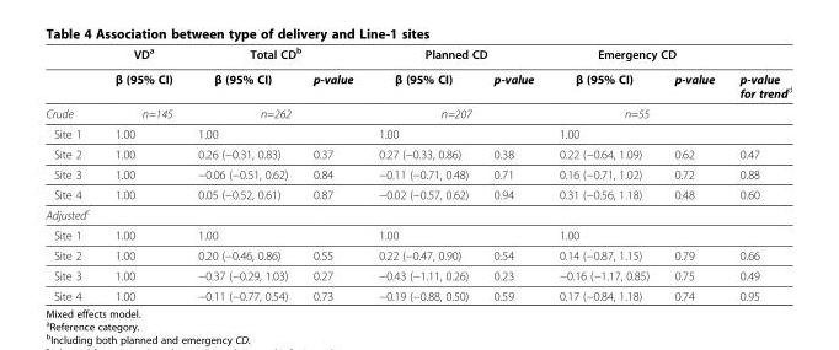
<table><thead><tr><td rowspan="2"></td><td rowspan="2">VD<sup>a</sup> β (95% CI)</td><td colspan="2">Total CD<sup>b</sup></td><td colspan="2">Planned CD</td><td colspan="2">Emergency CD</td><td rowspan="2">p-value for trend<sup>d</sup></td></tr><tr><td>β (95% CI)</td><td>p-value</td><td>β (95% CI)</td><td>p-value</td><td>β (95% CI)</td><td>p-value</td></tr></thead><tbody><tr><td>Crude</td><td>n=145</td><td colspan="2">n=262</td><td colspan="2">n=207</td><td colspan="2">n=55</td><td></td></tr><tr><td>Site 1</td><td>1.00</td><td>1.00</td><td></td><td>1.00</td><td></td><td>1.00</td><td></td><td></td></tr><tr><td>Site 2</td><td>1.00</td><td>0.26 (−0.31, 0.83)</td><td>0.37</td><td>0.27 (−0.33, 0.86)</td><td>0.38</td><td>0.22 (−0.64, 1.09)</td><td>0.62</td><td>0.47</td></tr><tr><td>Site 3</td><td>1.00</td><td>−0.06 (−0.51, 0.62)</td><td>0.84</td><td>−0.11 (−0.71, 0.48)</td><td>0.71</td><td>0.16 (−0.71, 1.02)</td><td>0.72</td><td>0.88</td></tr><tr><td>Site 4</td><td>1.00</td><td>0.05 (−0.52, 0.61)</td><td>0.87</td><td>−0.02 (−0.57, 0.62)</td><td>0.94</td><td>0.31 (−0.56, 1.18)</td><td>0.48</td><td>0.60</td></tr><tr><td colspan="9">Adjusted<sup>c</sup></td></tr><tr><td>Site 1</td><td>1.00</td><td>1.00</td><td></td><td>1.00</td><td></td><td>1.00</td><td></td><td></td></tr><tr><td>Site 2</td><td>1.00</td><td>0.20 (−0.46, 0.86)</td><td>0.55</td><td>0.22 (−0.47, 0.90)</td><td>0.54</td><td>0.14 (−0.87, 1.15)</td><td>0.79</td><td>0.66</td></tr><tr><td>Site 3</td><td>1.00</td><td>−0.37 (−0.29, 1.03)</td><td>0.27</td><td>−0.43 (−1.11, 0.26)</td><td>0.23</td><td>−0.16 (−1.17, 0.85)</td><td>0.75</td><td>0.49</td></tr><tr><td>Site 4</td><td>1.00</td><td>−0.11 (−0.77, 0.54)</td><td>0.73</td><td>−0.19 (−0.88, 0.50)</td><td>0.59</td><td>0.17 (−0.84, 1.18)</td><td>0.74</td><td>0.95</td></tr></tbody></table>